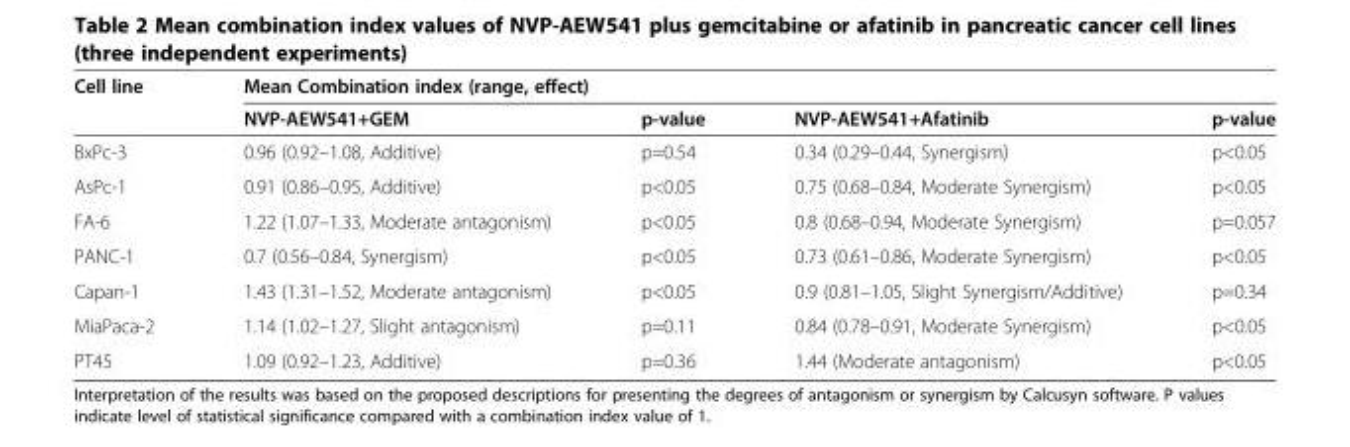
<table><thead><tr><td rowspan="2">Cell line</td><td colspan="4">Mean Combination index (range, effect)</td></tr><tr><td>NVP-AEW541+GEM</td><td>p-value</td><td>NVP-AEW541+Afatinib</td><td>p-value</td></tr></thead><tbody><tr><td>BxPc-3</td><td>0.96 (0.92–1.08, Additive)</td><td>p=0.54</td><td>0.34 (0.29–0.44, Synergism)</td><td>p&lt;0.05</td></tr><tr><td>AsPc-1</td><td>0.91 (0.86–0.95, Additive)</td><td>p&lt;0.05</td><td>0.75 (0.68–0.84, Moderate Synergism)</td><td>p&lt;0.05</td></tr><tr><td>FA-6</td><td>1.22 (1.07–1.33, Moderate antagonism)</td><td>p&lt;0.05</td><td>0.8 (0.68–0.94, Moderate Synergism)</td><td>p=0.057</td></tr><tr><td>PANC-1</td><td>0.7 (0.56–0.84, Synergism)</td><td>p&lt;0.05</td><td>0.73 (0.61–0.86, Moderate Synergism)</td><td>p&lt;0.05</td></tr><tr><td>Capan-1</td><td>1.43 (1.31–1.52, Moderate antagonism)</td><td>p&lt;0.05</td><td>0.9 (0.81–1.05, Slight Synergism/Additive)</td><td>p=0.34</td></tr><tr><td>MiaPaca-2</td><td>1.14 (1.02–1.27, Slight antagonism)</td><td>p=0.11</td><td>0.84 (0.78–0.91, Moderate Synergism)</td><td>p&lt;0.05</td></tr><tr><td>PT45</td><td>1.09 (0.92–1.23, Additive)</td><td>p=0.36</td><td>1.44 (Moderate antagonism)</td><td>p&lt;0.05</td></tr></tbody></table>